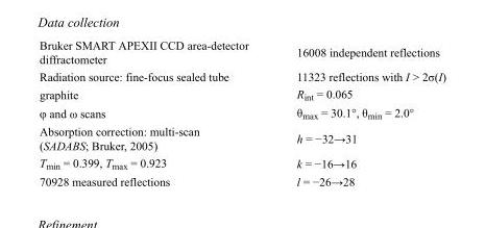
<table><tbody><tr><td>Bruker SMART APEXII CCD area-detector diffractometer</td><td>16008 independent reflections</td></tr><tr><td>Radiation source: fine-focus sealed tube</td><td>11323 reflections with I &gt; 2σ(I)</td></tr><tr><td>graphite</td><td>R<sub>int</sub> = 0.065</td></tr><tr><td>φ and ω scans</td><td>θ<sub>max</sub> = 30.1°, θ<sub>min</sub> = 2.0°</td></tr><tr><td>Absorption correction: multi-scan (SADABS; Bruker, 2005)</td><td>h = −32→31</td></tr><tr><td>T<sub>min</sub> = 0.399, T<sub>max</sub> = 0.923</td><td>k = −16→16</td></tr><tr><td>70928 measured reflections</td><td>l = −26→28</td></tr></tbody></table>